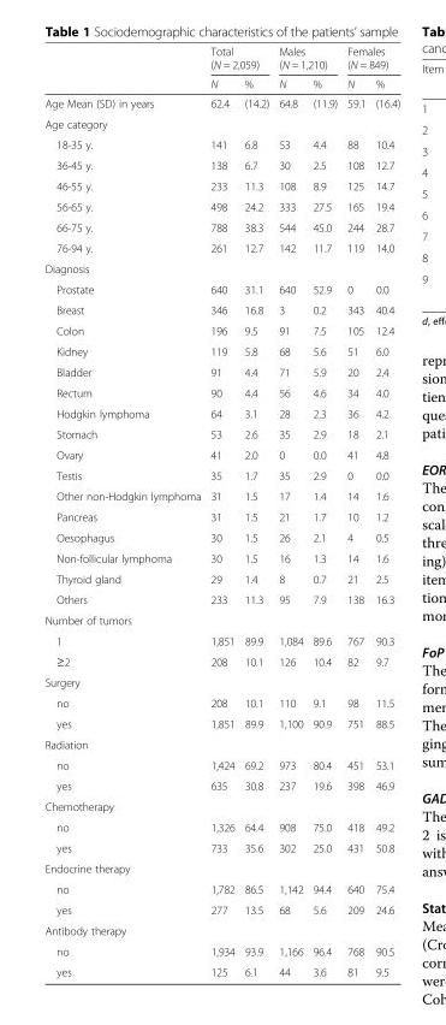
<table><thead><tr><td rowspan="2"></td><td colspan="2">Total (N = 2,059)</td><td colspan="2">Males (N = 1,210)</td><td colspan="2">Females (N = 849)</td></tr><tr><td>N</td><td>%</td><td>N</td><td>%</td><td>N</td><td>%</td></tr></thead><tbody><tr><td>Age Mean (SD) in years</td><td>62.4</td><td>(14.2)</td><td>64.8</td><td>(11.9)</td><td>59.1</td><td>(16.4)</td></tr><tr><td colspan="7">Age category</td></tr><tr><td>18-35 y.</td><td>141</td><td>6.8</td><td>53</td><td>4.4</td><td>88</td><td>10.4</td></tr><tr><td>36-45 y.</td><td>138</td><td>6.7</td><td>30</td><td>2.5</td><td>108</td><td>12.7</td></tr><tr><td>46-55 y.</td><td>233</td><td>11.3</td><td>108</td><td>8.9</td><td>125</td><td>14.7</td></tr><tr><td>56-65 y.</td><td>498</td><td>24.2</td><td>333</td><td>27.5</td><td>165</td><td>19.4</td></tr><tr><td>66-75 y.</td><td>788</td><td>38.3</td><td>544</td><td>45.0</td><td>244</td><td>28.7</td></tr><tr><td>76-94 y.</td><td>261</td><td>12.7</td><td>142</td><td>11.7</td><td>119</td><td>14.0</td></tr><tr><td colspan="7">Diagnosis</td></tr><tr><td>Prostate</td><td>640</td><td>31.1</td><td>640</td><td>52.9</td><td>0</td><td>0.0</td></tr><tr><td>Breast</td><td>346</td><td>16.8</td><td>3</td><td>0.2</td><td>343</td><td>40.4</td></tr><tr><td>Colon</td><td>196</td><td>9.5</td><td>91</td><td>7.5</td><td>105</td><td>12.4</td></tr><tr><td>Kidney</td><td>119</td><td>5.8</td><td>68</td><td>5.6</td><td>51</td><td>6.0</td></tr><tr><td>Bladder</td><td>91</td><td>4.4</td><td>71</td><td>5.9</td><td>20</td><td>2.4</td></tr><tr><td>Rectum</td><td>90</td><td>4.4</td><td>56</td><td>4.6</td><td>34</td><td>4.0</td></tr><tr><td>Hodgkin lymphoma</td><td>64</td><td>3.1</td><td>28</td><td>2.3</td><td>36</td><td>4.2</td></tr><tr><td>Stomach</td><td>53</td><td>2.6</td><td>35</td><td>2.9</td><td>18</td><td>2.1</td></tr><tr><td>Ovary</td><td>41</td><td>2.0</td><td>0</td><td>0.0</td><td>41</td><td>4.8</td></tr><tr><td>Testis</td><td>35</td><td>1.7</td><td>35</td><td>2.9</td><td>0</td><td>0.0</td></tr><tr><td>Other non-Hodgkin lymphoma</td><td>31</td><td>1.5</td><td>17</td><td>1.4</td><td>14</td><td>1.6</td></tr><tr><td>Pancreas</td><td>31</td><td>1.5</td><td>21</td><td>1.7</td><td>10</td><td>1.2</td></tr><tr><td>Oesophagus</td><td>30</td><td>1.5</td><td>26</td><td>2.1</td><td>4</td><td>0.5</td></tr><tr><td>Non-follicular lymphoma</td><td>30</td><td>1.5</td><td>16</td><td>1.3</td><td>14</td><td>1.6</td></tr><tr><td>Thyroid gland</td><td>29</td><td>1.4</td><td>8</td><td>0.7</td><td>21</td><td>2.5</td></tr><tr><td>Others</td><td>233</td><td>11.3</td><td>95</td><td>7.9</td><td>138</td><td>16.3</td></tr><tr><td colspan="7">Number of tumors</td></tr><tr><td>1</td><td>1,851</td><td>89.9</td><td>1,084</td><td>89.6</td><td>767</td><td>90.3</td></tr><tr><td>≥2</td><td>208</td><td>10.1</td><td>126</td><td>10.4</td><td>82</td><td>9.7</td></tr><tr><td colspan="7">Surgery</td></tr><tr><td>no</td><td>208</td><td>10.1</td><td>110</td><td>9.1</td><td>98</td><td>11.5</td></tr><tr><td>yes</td><td>1,851</td><td>89.9</td><td>1,100</td><td>90.9</td><td>751</td><td>88.5</td></tr><tr><td colspan="7">Radiation</td></tr><tr><td>no</td><td>1,424</td><td>69.2</td><td>973</td><td>80.4</td><td>451</td><td>53.1</td></tr><tr><td>yes</td><td>635</td><td>30.8</td><td>237</td><td>19.6</td><td>398</td><td>46.9</td></tr><tr><td colspan="7">Chemotherapy</td></tr><tr><td>no</td><td>1,326</td><td>64.4</td><td>908</td><td>75.0</td><td>418</td><td>49.2</td></tr><tr><td>yes</td><td>733</td><td>35.6</td><td>302</td><td>25.0</td><td>431</td><td>50.8</td></tr><tr><td colspan="7">Endocrine therapy</td></tr><tr><td>no</td><td>1,782</td><td>86.5</td><td>1,142</td><td>94.4</td><td>640</td><td>75.4</td></tr><tr><td>yes</td><td>277</td><td>13.5</td><td>68</td><td>5.6</td><td>209</td><td>24.6</td></tr><tr><td colspan="7">Antibody therapy</td></tr><tr><td>no</td><td>1,934</td><td>93.9</td><td>1,166</td><td>96.4</td><td>768</td><td>90.5</td></tr><tr><td>yes</td><td>125</td><td>6.1</td><td>44</td><td>3.6</td><td>81</td><td>9.5</td></tr></tbody></table>